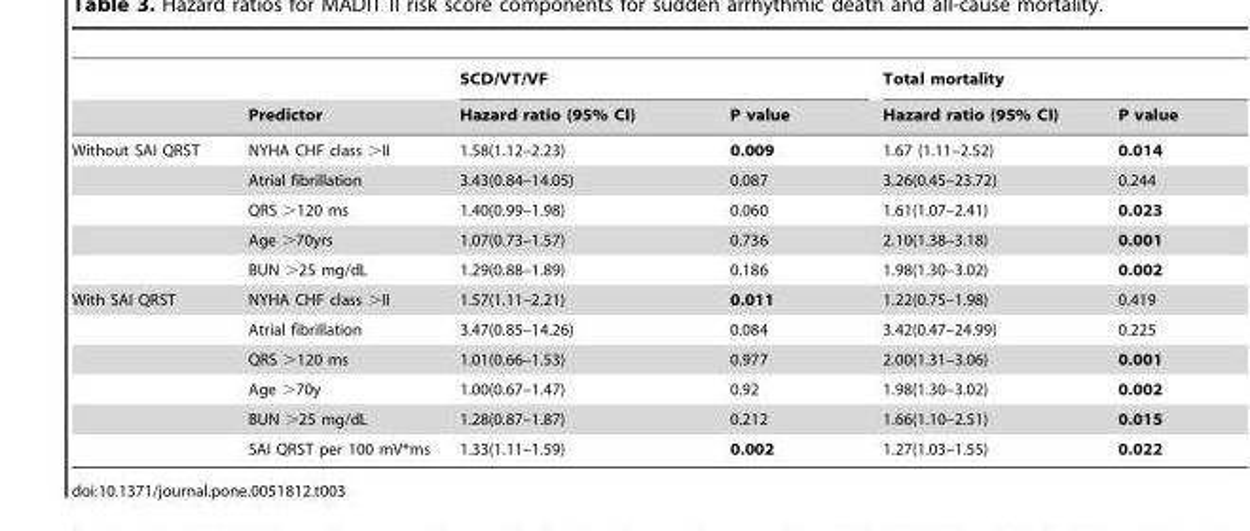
<table><thead><tr><td rowspan="2"></td><td rowspan="2">Predictor</td><td colspan="2">SCD/VT/VF</td><td colspan="2">Total mortality</td></tr><tr><td>Hazard ratio (95% CI)</td><td>P value</td><td>Hazard ratio (95% CI)</td><td>P value</td></tr></thead><tbody><tr><td rowspan="5">Without SAI QRST</td><td>NYHA CHF class &gt;II</td><td>1.58(1.12–2.23)</td><td>0.009</td><td>1.67 (1.11–2.52)</td><td>0.014</td></tr><tr><td>Atrial fibrillation</td><td>3.43(0.84–14.05)</td><td>0.087</td><td>3.26(0.45–23.72)</td><td>0.244</td></tr><tr><td>QRS &gt;120 ms</td><td>1.40(0.99–1.98)</td><td>0.060</td><td>1.61(1.07–2.41)</td><td>0.023</td></tr><tr><td>Age &gt;70yrs</td><td>1.07(0.73–1.57)</td><td>0.736</td><td>2.10(1.38–3.18)</td><td>0.001</td></tr><tr><td>BUN &gt;25 mg/dL</td><td>1.29(0.88–1.89)</td><td>0.186</td><td>1.98(1.30–3.02)</td><td>0.002</td></tr><tr><td rowspan="6">With SAI QRST</td><td>NYHA CHF class &gt;II</td><td>1.57(1.11–2.21)</td><td>0.011</td><td>1.22(0.75–1.98)</td><td>0.419</td></tr><tr><td>Atrial fibrillation</td><td>3.47(0.85–14.26)</td><td>0.084</td><td>3.42(0.47–24.99)</td><td>0.225</td></tr><tr><td>QRS &gt;120 ms</td><td>1.01(0.66–1.53)</td><td>0.977</td><td>2.00(1.31–3.06)</td><td>0.001</td></tr><tr><td>Age &gt;70y</td><td>1.00(0.67–1.47)</td><td>0.92</td><td>1.98(1.30–3.02)</td><td>0.002</td></tr><tr><td>BUN &gt;25 mg/dL</td><td>1.28(0.87–1.87)</td><td>0.212</td><td>1.66(1.10–2.51)</td><td>0.015</td></tr><tr><td>SAI QRST per 100 mV*ms</td><td>1.33(1.11–1.59)</td><td>0.002</td><td>1.27(1.03–1.55)</td><td>0.022</td></tr></tbody></table>